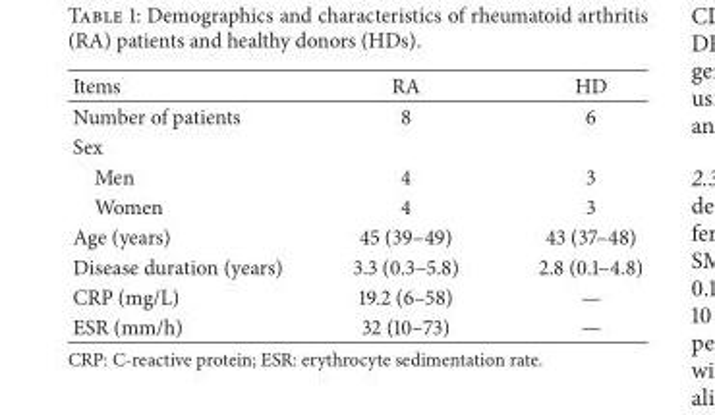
<table><thead><tr><td>Items</td><td>RA</td><td>HD</td></tr></thead><tbody><tr><td>Number of patients</td><td>8</td><td>6</td></tr><tr><td colspan="3">Sex</td></tr><tr><td>Men</td><td>4</td><td>3</td></tr><tr><td>Women</td><td>4</td><td>3</td></tr><tr><td>Age (years)</td><td>45 (39–49)</td><td>43 (37–48)</td></tr><tr><td>Disease duration (years)</td><td>3.3 (0.3–5.8)</td><td>2.8 (0.1–4.8)</td></tr><tr><td>CRP (mg/L)</td><td>19.2 (6–58)</td><td>—</td></tr><tr><td>ESR (mm/h)</td><td>32 (10–73)</td><td>—</td></tr></tbody></table>